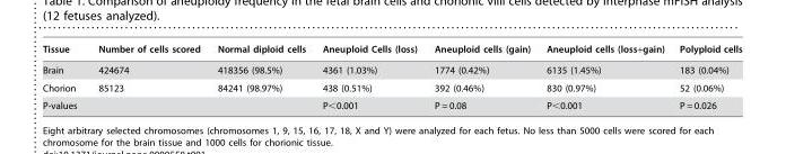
<table><thead><tr><td>Tissue</td><td>Number of cells scored</td><td>Normal diploid cells</td><td>Aneuploid Cells (loss)</td><td>Aneuploid cells (gain)</td><td>Aneuploid cells (loss+gain)</td><td>Polyploid cells</td></tr></thead><tbody><tr><td>Brain</td><td>424674</td><td>418356 (98.5%)</td><td>4361 (1.03%)</td><td>1774 (0.42%)</td><td>6135 (1.45%)</td><td>183 (0.04%)</td></tr><tr><td>Chorion</td><td>85123</td><td>84241 (98.97%)</td><td>438 (0.51%)</td><td>392 (0.46%)</td><td>830 (0.97%)</td><td>52 (0.06%)</td></tr><tr><td>P-values</td><td></td><td></td><td>P&lt;0.001</td><td>P = 0.08</td><td>P&lt;0.001</td><td>P = 0.026</td></tr></tbody></table>